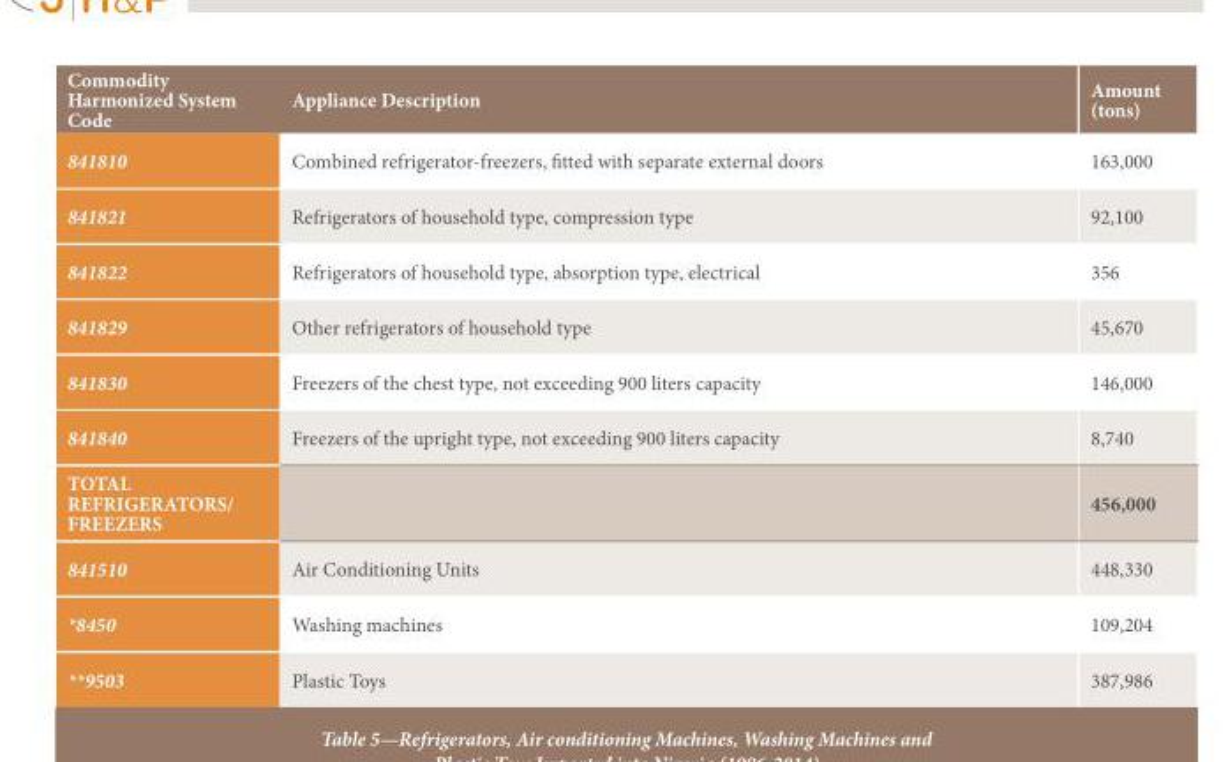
<table><thead><tr><td>Commodity Harmonized System Code</td><td>Appliance Description</td><td>Amount (tons)</td></tr></thead><tbody><tr><td>841810</td><td>Combined refrigerator-freezers, fitted with separate external doors</td><td>163,000</td></tr><tr><td>841821</td><td>Refrigerators of household type, compression type</td><td>92,100</td></tr><tr><td>841822</td><td>Refrigerators of household type, absorption type, electrical</td><td>356</td></tr><tr><td>841829</td><td>Other refrigerators of household type</td><td>45,670</td></tr><tr><td>841830</td><td>Freezers of the chest type, not exceeding 900 liters capacity</td><td>146,000</td></tr><tr><td>841840</td><td>Freezers of the upright type, not exceeding 900 liters capacity</td><td>8,740</td></tr><tr><td>TOTAL REFRIGERATORS/ FREEZERS</td><td></td><td>456,000</td></tr><tr><td>841510</td><td>Air Conditioning Units</td><td>448,330</td></tr><tr><td>*8450</td><td>Washing machines</td><td>109,204</td></tr><tr><td>**9503</td><td>Plastic Toys</td><td>387,986</td></tr></tbody></table>